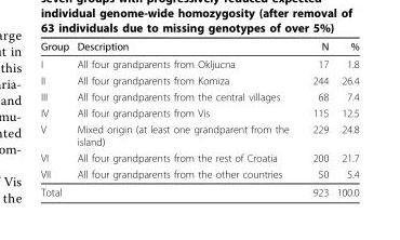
<table><thead><tr><td>Group</td><td>Description</td><td>N</td><td>%</td></tr></thead><tbody><tr><td>I</td><td>All four grandparents from Okljucna</td><td>17</td><td>1.8</td></tr><tr><td>II</td><td>All four grandparents from Komiza</td><td>244</td><td>26.4</td></tr><tr><td>III</td><td>All four grandparents from the central villages</td><td>68</td><td>7.4</td></tr><tr><td>IV</td><td>All four grandparents from Vis</td><td>115</td><td>12.5</td></tr><tr><td>V</td><td>Mixed origin (at least one grandparent from the island)</td><td>229</td><td>24.8</td></tr><tr><td>VI</td><td>All four grandparents from the rest of Croatia</td><td>200</td><td>21.7</td></tr><tr><td>VII</td><td>All four grandparents from the other countries</td><td>50</td><td>5.4</td></tr><tr><td>Total</td><td></td><td>923</td><td>100.0</td></tr></tbody></table>